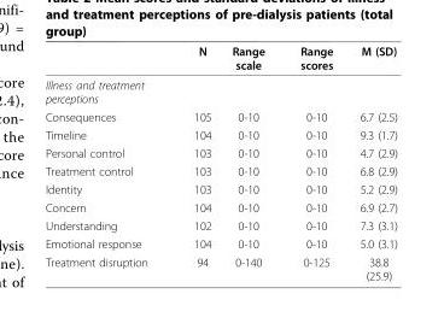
<table><thead><tr><td></td><td>N</td><td>Range scale</td><td>Range scores</td><td>M (SD)</td></tr></thead><tbody><tr><td colspan="5">Illness and treatment perceptions</td></tr><tr><td>Consequences</td><td>105</td><td>0-10</td><td>0-10</td><td>6.7 (2.5)</td></tr><tr><td>Timeline</td><td>104</td><td>0-10</td><td>0-10</td><td>9.3 (1.7)</td></tr><tr><td>Personal control</td><td>103</td><td>0-10</td><td>0-10</td><td>4.7 (2.9)</td></tr><tr><td>Treatment control</td><td>103</td><td>0-10</td><td>0-10</td><td>6.8 (2.9)</td></tr><tr><td>Identity</td><td>103</td><td>0-10</td><td>0-10</td><td>5.2 (2.9)</td></tr><tr><td>Concern</td><td>104</td><td>0-10</td><td>0-10</td><td>6.9 (2.7)</td></tr><tr><td>Understanding</td><td>102</td><td>0-10</td><td>0-10</td><td>7.3 (3.1)</td></tr><tr><td>Emotional response</td><td>104</td><td>0-10</td><td>0-10</td><td>5.0 (3.1)</td></tr><tr><td>Treatment disruption</td><td>94</td><td>0-140</td><td>0-125</td><td>38.8 (25.9)</td></tr></tbody></table>